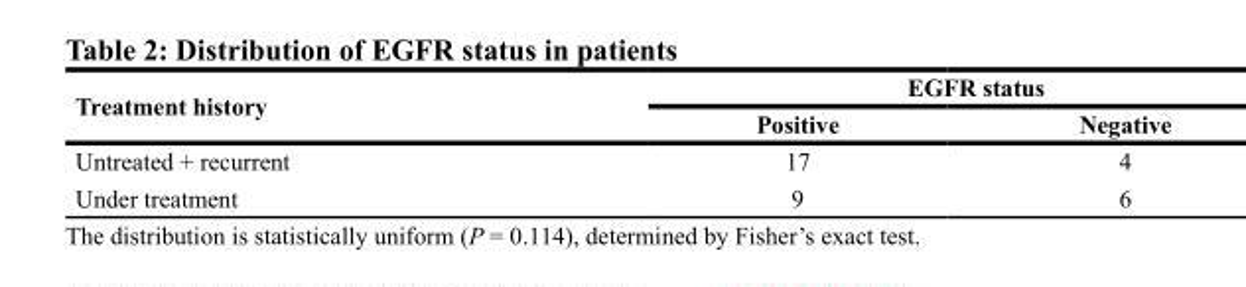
<table><thead><tr><td rowspan="2">Treatment history</td><td colspan="2">EGFR status</td></tr><tr><td>Positive</td><td>Negative</td></tr></thead><tbody><tr><td>Untreated + recurrent</td><td>17</td><td>4</td></tr><tr><td>Under treatment</td><td>9</td><td>6</td></tr></tbody></table>